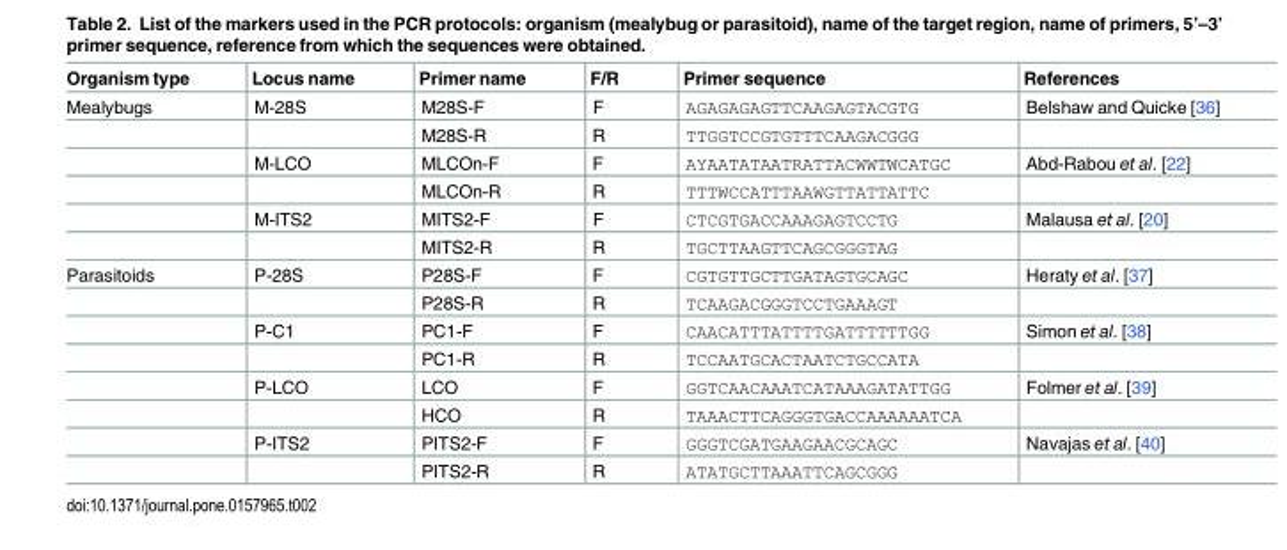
<table><thead><tr><td>Organism type</td><td>Locus name</td><td>Primer name</td><td>F/R</td><td>Primer sequence</td><td>References</td></tr></thead><tbody><tr><td rowspan="6">Mealybugs</td><td>M-28S</td><td>M28S-F</td><td>F</td><td>AGAGAGAGTTCAAGAGTACGTG</td><td>Belshaw and Quicke [36]</td></tr><tr><td></td><td>M28S-R</td><td>R</td><td>TTGGTCCGTGTTTCAAGACGGG</td><td></td></tr><tr><td>M-LCO</td><td>MLCOn-F</td><td>F</td><td>AYAATATAATRATTACWWTWCATGC</td><td>Abd-Rabou et al. [22]</td></tr><tr><td></td><td>MLCOn-R</td><td>R</td><td>TTTWCCATTTAAWGTTATTATTC</td><td></td></tr><tr><td>M-ITS2</td><td>MITS2-F</td><td>F</td><td>CTCGTGACCAAAGAGTCCTG</td><td>Malausa et al. [20]</td></tr><tr><td></td><td>MITS2-R</td><td>R</td><td>TGCTTAAGTTCAGCGGGTAG</td><td></td></tr><tr><td rowspan="8">Parasitoids</td><td>P-28S</td><td>P28S-F</td><td>F</td><td>CGTGTTGCTTGATAGTGCAGC</td><td>Heraty et al. [37]</td></tr><tr><td></td><td>P28S-R</td><td>R</td><td>TCAAGACGGGTCCTGAAAGT</td><td></td></tr><tr><td>P-C1</td><td>PC1-F</td><td>F</td><td>CAACATTTATTTTGATTTTTTGG</td><td>Simon et al. [38]</td></tr><tr><td></td><td>PC1-R</td><td>R</td><td>TCCAATGCACTAATCTGCCATA</td><td></td></tr><tr><td>P-LCO</td><td>LCO</td><td>F</td><td>GGTCAACAAATCATAAAGATATTGG</td><td>Folmer et al. [39]</td></tr><tr><td></td><td>HCO</td><td>R</td><td>TAAACTTCAGGGTGACCAAAAAATCA</td><td></td></tr><tr><td>P-ITS2</td><td>PITS2-F</td><td>F</td><td>GGGTCGATGAAGAACGCAGC</td><td>Navajas et al. [40]</td></tr><tr><td></td><td>PITS2-R</td><td>R</td><td>ATATGCTTAAATTCAGCGGG</td><td></td></tr></tbody></table>